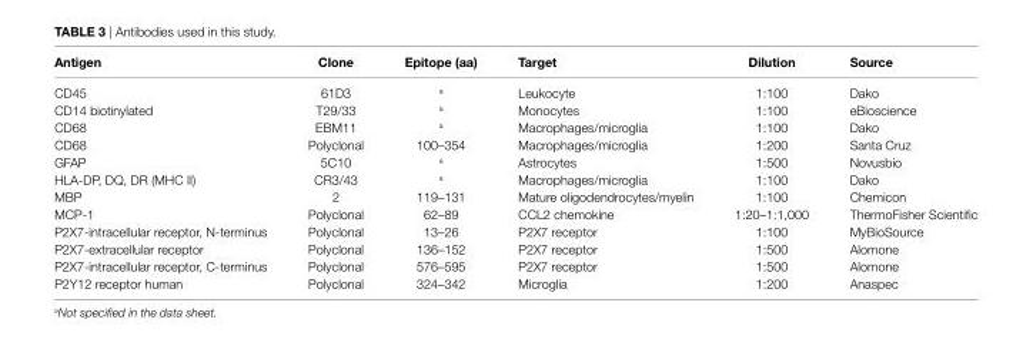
<table><thead><tr><td>antigen</td><td>clone</td><td>epitope (aa)</td><td>Target</td><td>Dilution</td><td>source</td></tr></thead><tbody><tr><td>CD45</td><td>61D3</td><td><sup>a</sup></td><td>Leukocyte</td><td>1:100</td><td>Dako</td></tr><tr><td>CD14 biotinylated</td><td>T29/33</td><td><sup>a</sup></td><td>Monocytes</td><td>1:100</td><td>eBioscience</td></tr><tr><td>CD68</td><td>EBM11</td><td><sup>a</sup></td><td>Macrophages/microglia</td><td>1:100</td><td>Dako</td></tr><tr><td>CD68</td><td>Polyclonal</td><td>100–354</td><td>Macrophages/microglia</td><td>1:200</td><td>Santa Cruz</td></tr><tr><td>GFAP</td><td>5C10</td><td><sup>a</sup></td><td>Astrocytes</td><td>1:500</td><td>Novusbio</td></tr><tr><td>HLA-DP, DQ, DR (MHC II)</td><td>CR3/43</td><td><sup>a</sup></td><td>Macrophages/microglia</td><td>1:100</td><td>Dako</td></tr><tr><td>MBP</td><td>2</td><td>119–131</td><td>Mature oligodendrocytes/myelin</td><td>1:100</td><td>Chemicon</td></tr><tr><td>MCP-1</td><td>Polyclonal</td><td>62–89</td><td>CCL2 chemokine</td><td>1:20–1:1,000</td><td>ThermoFisher Scientific</td></tr><tr><td>P2X7-intracellular receptor, N-terminus</td><td>Polyclonal</td><td>13–26</td><td>P2X7 receptor</td><td>1:100</td><td>MyBioSource</td></tr><tr><td>P2X7-extracellular receptor</td><td>Polyclonal</td><td>136–152</td><td>P2X7 receptor</td><td>1:500</td><td>Alomone</td></tr><tr><td>P2X7-intracellular receptor, C-terminus</td><td>Polyclonal</td><td>576–595</td><td>P2X7 receptor</td><td>1:500</td><td>Alomone</td></tr><tr><td>P2Y12 receptor human</td><td>Polyclonal</td><td>324–342</td><td>Microglia</td><td>1:200</td><td>Anaspec</td></tr></tbody></table>